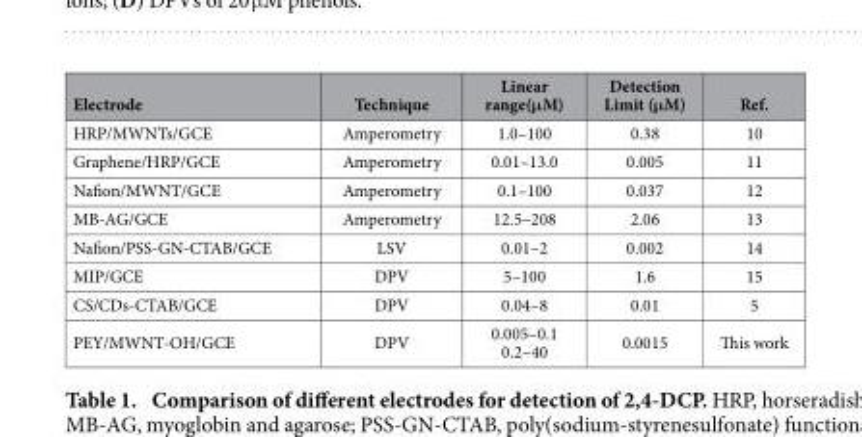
<table><thead><tr><td>Electrode</td><td>Technique</td><td>Linear range(μM)</td><td>Detection Limit (μM)</td><td>Ref.</td></tr></thead><tbody><tr><td>HRP/MWNTs/GCE</td><td>Amperometry</td><td>1.0–100</td><td>0.38</td><td>10</td></tr><tr><td>Graphene/HRP/GCE</td><td>Amperometry</td><td>0.01–13.0</td><td>0.005</td><td>11</td></tr><tr><td>Nafion/MWNT/GCE</td><td>Amperometry</td><td>0.1–100</td><td>0.037</td><td>12</td></tr><tr><td>MB-AG/GCE</td><td>Amperometry</td><td>12.5–208</td><td>2.06</td><td>13</td></tr><tr><td>Nafion/PSS-GN-CTAB/GCE</td><td>LSV</td><td>0.01–2</td><td>0.002</td><td>14</td></tr><tr><td>MIP/GCE</td><td>DPV</td><td>5–100</td><td>1.6</td><td>15</td></tr><tr><td>CS/CDs-CTAB/GCE</td><td>DPV</td><td>0.04–8</td><td>0.01</td><td>5</td></tr><tr><td>PEY/MWNT-OH/GCE</td><td>DPV</td><td>0.005–0.1 0.2–40</td><td>0.0015</td><td>This work</td></tr></tbody></table>